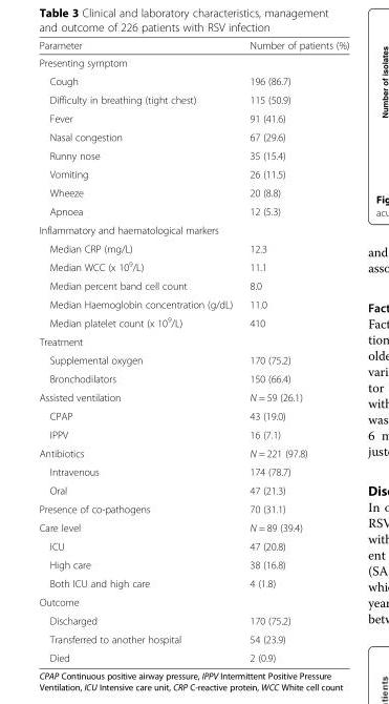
<table><thead><tr><td>Parameter</td><td>Number of patients (%)</td></tr></thead><tbody><tr><td colspan="2">Presenting symptom</td></tr><tr><td>Cough</td><td>196 (86.7)</td></tr><tr><td>Difficulty in breathing (tight chest)</td><td>115 (50.9)</td></tr><tr><td>Fever</td><td>91 (41.6)</td></tr><tr><td>Nasal congestion</td><td>67 (29.6)</td></tr><tr><td>Runny nose</td><td>35 (15.4)</td></tr><tr><td>Vomiting</td><td>26 (11.5)</td></tr><tr><td>Wheeze</td><td>20 (8.8)</td></tr><tr><td>Apnoea</td><td>12 (5.3)</td></tr><tr><td colspan="2">Inflammatory and haematological markers</td></tr><tr><td>Median CRP (mg/L)</td><td>12.3</td></tr><tr><td>Median WCC (x 10<sup>9</sup>/L)</td><td>11.1</td></tr><tr><td>Median percent band cell count</td><td>8.0</td></tr><tr><td>Median Haemoglobin concentration (g/dL)</td><td>11.0</td></tr><tr><td>Median platelet count (x 10<sup>9</sup>/L)</td><td>410</td></tr><tr><td colspan="2">Treatment</td></tr><tr><td>Supplemental oxygen</td><td>170 (75.2)</td></tr><tr><td>Bronchodilators</td><td>150 (66.4)</td></tr><tr><td>Assisted ventilation</td><td>N = 59 (26.1)</td></tr><tr><td>CPAP</td><td>43 (19.0)</td></tr><tr><td>IPPV</td><td>16 (7.1)</td></tr><tr><td>Antibiotics</td><td>N = 221 (97.8)</td></tr><tr><td>Intravenous</td><td>174 (78.7)</td></tr><tr><td>Oral</td><td>47 (21.3)</td></tr><tr><td>Presence of co-pathogens</td><td>70 (31.1)</td></tr><tr><td>Care level</td><td>N = 89 (39.4)</td></tr><tr><td>ICU</td><td>47 (20.8)</td></tr><tr><td>High care</td><td>38 (16.8)</td></tr><tr><td>Both ICU and high care</td><td>4 (1.8)</td></tr><tr><td colspan="2">Outcome</td></tr><tr><td>Discharged</td><td>170 (75.2)</td></tr><tr><td>Transferred to another hospital</td><td>54 (23.9)</td></tr><tr><td>Died</td><td>2 (0.9)</td></tr></tbody></table>